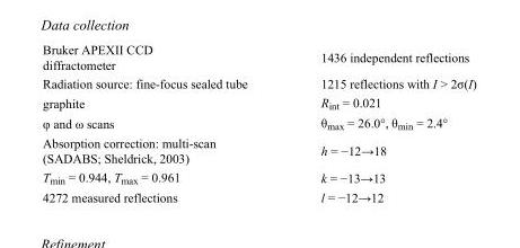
<table><tbody><tr><td>Bruker APEXII CCD diffractometer</td><td>1436 independent reflections</td></tr><tr><td>Radiation source: fine-focus sealed tube</td><td>1215 reflections with I &gt; 2σ(I)</td></tr><tr><td>graphite</td><td>R<sub>int</sub> = 0.021</td></tr><tr><td>φ and ω scans</td><td>θ<sub>max</sub> = 26.0°, θ<sub>min</sub> = 2.4°</td></tr><tr><td>Absorption correction: multi-scan (SADABS; Sheldrick, 2003)</td><td>h = −12→18</td></tr><tr><td>T<sub>min</sub> = 0.944, T<sub>max</sub> = 0.961</td><td>k = −13→13</td></tr><tr><td>4272 measured reflections</td><td>l = −12→12</td></tr></tbody></table>